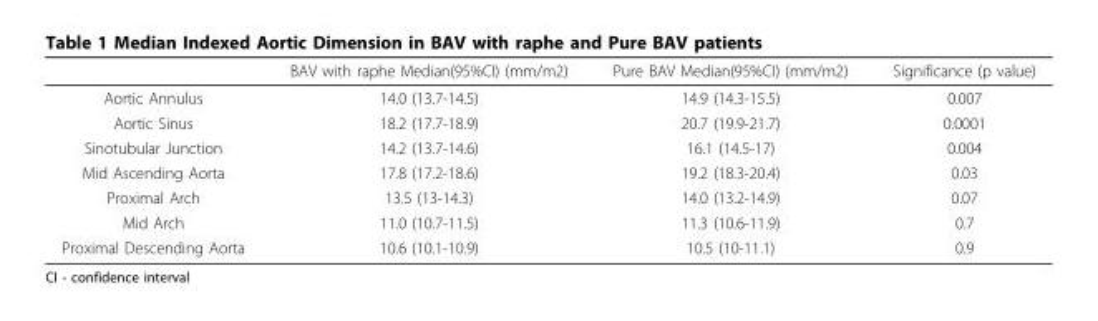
<table><thead><tr><td></td><td>BAV with raphe Median(95%CI) (mm/m2)</td><td>Pure BAV Median(95%CI) (mm/m2)</td><td>Significance (p value)</td></tr></thead><tbody><tr><td>Aortic Annulus</td><td>14.0 (13.7-14.5)</td><td>14.9 (14.3-15.5)</td><td>0.007</td></tr><tr><td>Aortic Sinus</td><td>18.2 (17.7-18.9)</td><td>20.7 (19.9-21.7)</td><td>0.0001</td></tr><tr><td>Sinotubular Junction</td><td>14.2 (13.7-14.6)</td><td>16.1 (14.5-17)</td><td>0.004</td></tr><tr><td>Mid Ascending Aorta</td><td>17.8 (17.2-18.6)</td><td>19.2 (18.3-20.4)</td><td>0.03</td></tr><tr><td>Proximal Arch</td><td>13.5 (13-14.3)</td><td>14.0 (13.2-14.9)</td><td>0.07</td></tr><tr><td>Mid Arch</td><td>11.0 (10.7-11.5)</td><td>11.3 (10.6-11.9)</td><td>0.7</td></tr><tr><td>Proximal Descending Aorta</td><td>10.6 (10.1-10.9)</td><td>10.5 (10-11.1)</td><td>0.9</td></tr></tbody></table>